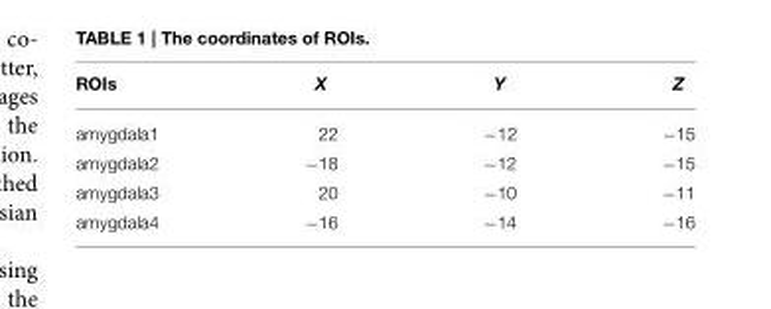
<table><thead><tr><td>ROIs</td><td>X</td><td>Y</td><td>Z</td></tr></thead><tbody><tr><td>amygdala1</td><td>22</td><td>−12</td><td>−15</td></tr><tr><td>amygdala2</td><td>−18</td><td>−12</td><td>−15</td></tr><tr><td>amygdala3</td><td>20</td><td>−10</td><td>−11</td></tr><tr><td>amygdala4</td><td>−16</td><td>−14</td><td>−16</td></tr></tbody></table>